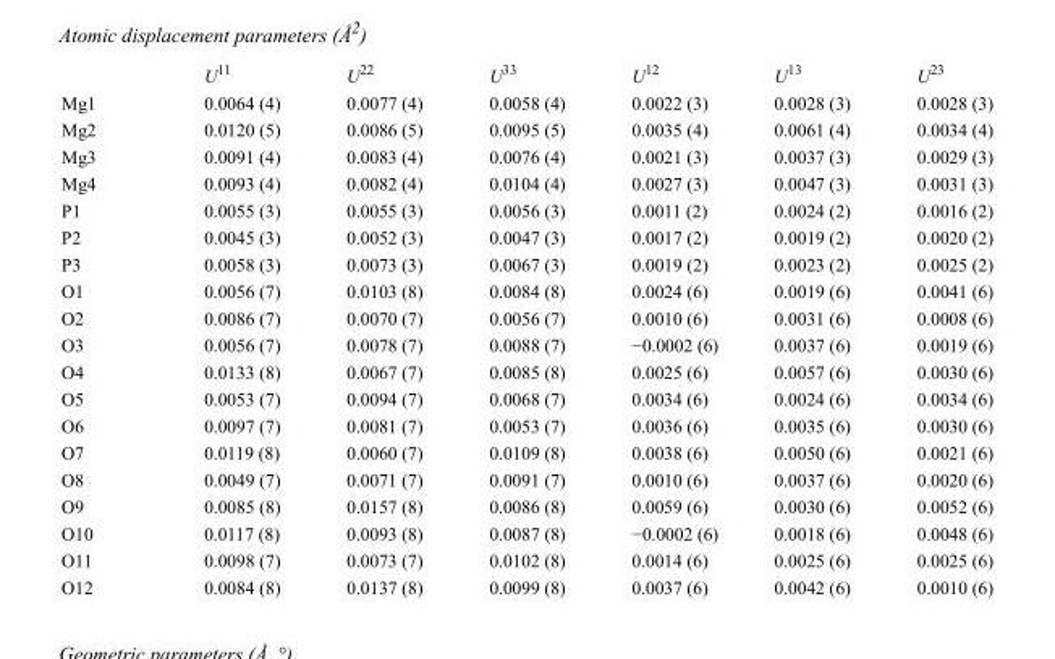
<table><thead><tr><td></td><td>U<sup>11</sup></td><td>U<sup>22</sup></td><td>U<sup>33</sup></td><td>U<sup>12</sup></td><td>U<sup>13</sup></td><td>U<sup>23</sup></td></tr></thead><tbody><tr><td>Mg1</td><td>0.0064 (4)</td><td>0.0077 (4)</td><td>0.0058 (4)</td><td>0.0022 (3)</td><td>0.0028 (3)</td><td>0.0028 (3)</td></tr><tr><td>Mg2</td><td>0.0120 (5)</td><td>0.0086 (5)</td><td>0.0095 (5)</td><td>0.0035 (4)</td><td>0.0061 (4)</td><td>0.0034 (4)</td></tr><tr><td>Mg3</td><td>0.0091 (4)</td><td>0.0083 (4)</td><td>0.0076 (4)</td><td>0.0021 (3)</td><td>0.0037 (3)</td><td>0.0029 (3)</td></tr><tr><td>Mg4</td><td>0.0093 (4)</td><td>0.0082 (4)</td><td>0.0104 (4)</td><td>0.0027 (3)</td><td>0.0047 (3)</td><td>0.0031 (3)</td></tr><tr><td>P1</td><td>0.0055 (3)</td><td>0.0055 (3)</td><td>0.0056 (3)</td><td>0.0011 (2)</td><td>0.0024 (2)</td><td>0.0016 (2)</td></tr><tr><td>P2</td><td>0.0045 (3)</td><td>0.0052 (3)</td><td>0.0047 (3)</td><td>0.0017 (2)</td><td>0.0019 (2)</td><td>0.0020 (2)</td></tr><tr><td>P3</td><td>0.0058 (3)</td><td>0.0073 (3)</td><td>0.0067 (3)</td><td>0.0019 (2)</td><td>0.0023 (2)</td><td>0.0025 (2)</td></tr><tr><td>O1</td><td>0.0056 (7)</td><td>0.0103 (8)</td><td>0.0084 (8)</td><td>0.0024 (6)</td><td>0.0019 (6)</td><td>0.0041 (6)</td></tr><tr><td>O2</td><td>0.0086 (7)</td><td>0.0070 (7)</td><td>0.0056 (7)</td><td>0.0010 (6)</td><td>0.0031 (6)</td><td>0.0008 (6)</td></tr><tr><td>O3</td><td>0.0056 (7)</td><td>0.0078 (7)</td><td>0.0088 (7)</td><td>−0.0002 (6)</td><td>0.0037 (6)</td><td>0.0019 (6)</td></tr><tr><td>O4</td><td>0.0133 (8)</td><td>0.0067 (7)</td><td>0.0085 (8)</td><td>0.0025 (6)</td><td>0.0057 (6)</td><td>0.0030 (6)</td></tr><tr><td>O5</td><td>0.0053 (7)</td><td>0.0094 (7)</td><td>0.0068 (7)</td><td>0.0034 (6)</td><td>0.0024 (6)</td><td>0.0034 (6)</td></tr><tr><td>O6</td><td>0.0097 (7)</td><td>0.0081 (7)</td><td>0.0053 (7)</td><td>0.0036 (6)</td><td>0.0035 (6)</td><td>0.0030 (6)</td></tr><tr><td>O7</td><td>0.0119 (8)</td><td>0.0060 (7)</td><td>0.0109 (8)</td><td>0.0038 (6)</td><td>0.0050 (6)</td><td>0.0021 (6)</td></tr><tr><td>O8</td><td>0.0049 (7)</td><td>0.0071 (7)</td><td>0.0091 (7)</td><td>0.0010 (6)</td><td>0.0037 (6)</td><td>0.0020 (6)</td></tr><tr><td>O9</td><td>0.0085 (8)</td><td>0.0157 (8)</td><td>0.0086 (8)</td><td>0.0059 (6)</td><td>0.0030 (6)</td><td>0.0052 (6)</td></tr><tr><td>O10</td><td>0.0117 (8)</td><td>0.0093 (8)</td><td>0.0087 (8)</td><td>−0.0002 (6)</td><td>0.0018 (6)</td><td>0.0048 (6)</td></tr><tr><td>O11</td><td>0.0098 (7)</td><td>0.0073 (7)</td><td>0.0102 (8)</td><td>0.0014 (6)</td><td>0.0025 (6)</td><td>0.0025 (6)</td></tr><tr><td>O12</td><td>0.0084 (8)</td><td>0.0137 (8)</td><td>0.0099 (8)</td><td>0.0037 (6)</td><td>0.0042 (6)</td><td>0.0010 (6)</td></tr></tbody></table>